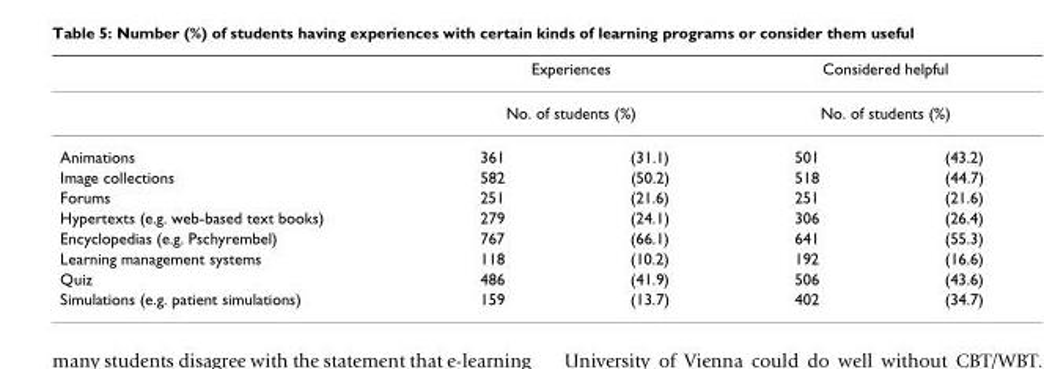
<table><thead><tr><td rowspan="3">Animations</td><td rowspan="2" colspan="2">Experiences No. of students (%)</td><td rowspan="2" colspan="2">Considered helpful No. of students (%)</td></tr><tr></tr><tr><td>361</td><td>(31.1)</td><td>501</td><td>(43.2)</td></tr></thead><tbody><tr><td>Image collections</td><td>582</td><td>(50.2)</td><td>518</td><td>(44.7)</td></tr><tr><td>Forums</td><td>251</td><td>(21.6)</td><td>251</td><td>(21.6)</td></tr><tr><td>Hypertexts (e.g. web-based text books)</td><td>279</td><td>(24.1)</td><td>306</td><td>(26.4)</td></tr><tr><td>Encyclopedias (e.g. Pschyrembel)</td><td>767</td><td>(66.1)</td><td>641</td><td>(55.3)</td></tr><tr><td>Learning management systems</td><td>118</td><td>(10.2)</td><td>192</td><td>(16.6)</td></tr><tr><td>Quiz</td><td>486</td><td>(41.9)</td><td>506</td><td>(43.6)</td></tr><tr><td>Simulations (e.g. patient simulations)</td><td>159</td><td>(13.7)</td><td>402</td><td>(34.7)</td></tr></tbody></table>